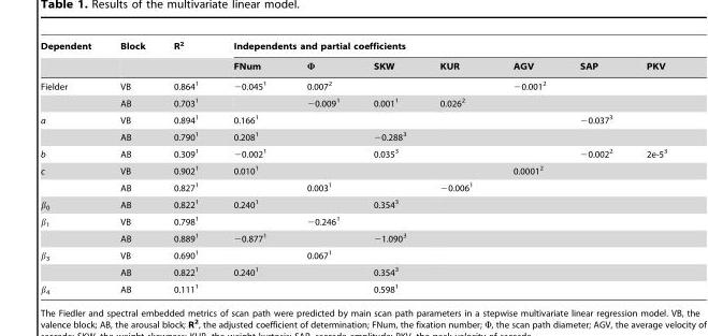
<table><thead><tr><td rowspan="2">Dependent</td><td rowspan="2">Block</td><td rowspan="2">R<sup>2</sup></td><td colspan="7">Independents and partial coefficients</td></tr><tr><td>FNum</td><td>Φ</td><td>SKW</td><td>KUR</td><td>AGV</td><td>SAP</td><td>PKV</td></tr></thead><tbody><tr><td rowspan="2">Fielder</td><td>VB</td><td>0.864<sup>1</sup></td><td>−0.045<sup>1</sup></td><td>0.007<sup>2</sup></td><td></td><td></td><td>−0.001<sup>2</sup></td><td></td><td></td></tr><tr><td>AB</td><td>0.703<sup>1</sup></td><td></td><td>−0.009<sup>1</sup></td><td>0.001<sup>1</sup></td><td>0.026<sup>2</sup></td><td></td><td></td><td></td></tr><tr><td rowspan="2">a</td><td>VB</td><td>0.894<sup>1</sup></td><td>0.166<sup>1</sup></td><td></td><td></td><td></td><td></td><td>−0.037<sup>3</sup></td><td></td></tr><tr><td>AB</td><td>0.790<sup>1</sup></td><td>0.208<sup>1</sup></td><td></td><td>−0.288<sup>3</sup></td><td></td><td></td><td></td><td></td></tr><tr><td>b</td><td>AB</td><td>0.309<sup>1</sup></td><td>−0.002<sup>1</sup></td><td></td><td>0.035<sup>3</sup></td><td></td><td></td><td>−0.002<sup>2</sup></td><td>2e-5<sup>3</sup></td></tr><tr><td rowspan="2">c</td><td>VB</td><td>0.902<sup>1</sup></td><td>0.010<sup>1</sup></td><td></td><td></td><td></td><td>0.0001<sup>2</sup></td><td></td><td></td></tr><tr><td>AB</td><td>0.827<sup>1</sup></td><td></td><td>0.003<sup>1</sup></td><td></td><td>−0.006<sup>1</sup></td><td></td><td></td><td></td></tr><tr><td>β<sub>0</sub></td><td>AB</td><td>0.822<sup>1</sup></td><td>0.240<sup>1</sup></td><td></td><td>0.354<sup>3</sup></td><td></td><td></td><td></td><td></td></tr><tr><td rowspan="2">β<sub>1</sub></td><td>VB</td><td>0.798<sup>1</sup></td><td></td><td>−0.246<sup>1</sup></td><td></td><td></td><td></td><td></td><td></td></tr><tr><td>AB</td><td>0.889<sup>1</sup></td><td>−0.877<sup>1</sup></td><td></td><td>−1.090<sup>3</sup></td><td></td><td></td><td></td><td></td></tr><tr><td rowspan="2">β<sub>3</sub></td><td>VB</td><td>0.690<sup>1</sup></td><td></td><td>0.067<sup>1</sup></td><td></td><td></td><td></td><td></td><td></td></tr><tr><td>AB</td><td>0.822<sup>1</sup></td><td>0.240<sup>1</sup></td><td></td><td>0.354<sup>3</sup></td><td></td><td></td><td></td><td></td></tr><tr><td>β<sub>4</sub></td><td>AB</td><td>0.111<sup>1</sup></td><td></td><td></td><td>0.598<sup>1</sup></td><td></td><td></td><td></td><td></td></tr></tbody></table>